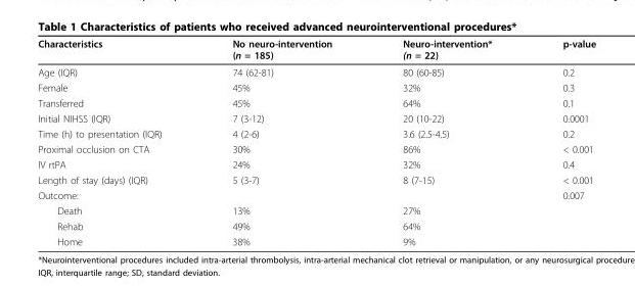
<table><thead><tr><td>Characteristics</td><td>No neuro-intervention (n = 185)</td><td>Neuro-intervention* (n = 22)</td><td>p-value</td></tr></thead><tbody><tr><td>Age (IQR)</td><td>74 (62-81)</td><td>80 (60-85)</td><td>0.2</td></tr><tr><td>Female</td><td>45%</td><td>32%</td><td>0.3</td></tr><tr><td>Transferred</td><td>45%</td><td>64%</td><td>0.1</td></tr><tr><td>Initial NIHSS (IQR)</td><td>7 (3-12)</td><td>20 (10-22)</td><td>0.0001</td></tr><tr><td>Time (h) to presentation (IQR)</td><td>4 (2-6)</td><td>3.6 (2.5-4.5)</td><td>0.2</td></tr><tr><td>Proximal occlusion on CTA</td><td>30%</td><td>86%</td><td>&lt; 0.001</td></tr><tr><td>IV rtPA</td><td>24%</td><td>32%</td><td>0.4</td></tr><tr><td>Length of stay (days) (IQR)</td><td>5 (3-7)</td><td>8 (7-15)</td><td>&lt; 0.001</td></tr><tr><td colspan="3">Outcome:</td><td>0.007</td></tr><tr><td>Death</td><td>13%</td><td>27%</td><td></td></tr><tr><td>Rehab</td><td>49%</td><td>64%</td><td></td></tr><tr><td>Home</td><td>38%</td><td>9%</td><td></td></tr></tbody></table>